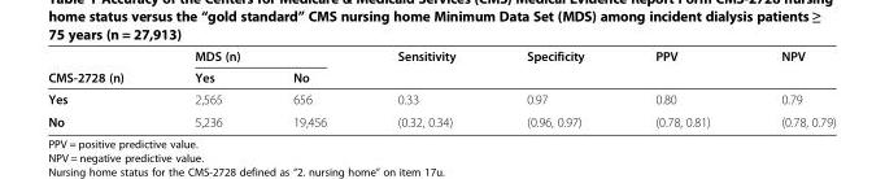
<table><thead><tr><td rowspan="2">CMS-2728 (n)</td><td colspan="2">MDS (n)</td><td rowspan="2">Sensitivity</td><td rowspan="2">Specificity</td><td rowspan="2">PPV</td><td rowspan="2">NPV</td></tr><tr><td>Yes</td><td>No</td></tr></thead><tbody><tr><td>Yes</td><td>2,565</td><td>656</td><td>0.33</td><td>0.97</td><td>0.80</td><td>0.79</td></tr><tr><td>No</td><td>5,236</td><td>19,456</td><td>(0.32, 0.34)</td><td>(0.96, 0.97)</td><td>(0.78, 0.81)</td><td>(0.78, 0.79)</td></tr></tbody></table>